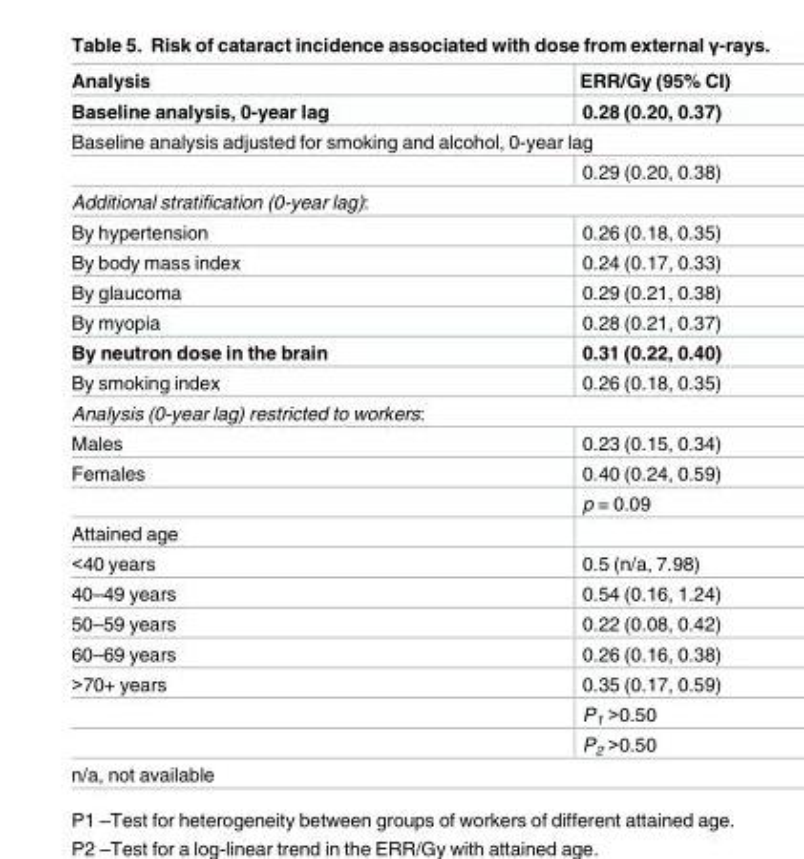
<table><thead><tr><td>Analysis</td><td>ERR/Gy (95% CI)</td></tr></thead><tbody><tr><td>Baseline analysis, 0-year lag</td><td>0.28 (0.20, 0.37)</td></tr><tr><td colspan="2">Baseline analysis adjusted for smoking and alcohol, 0-year lag</td></tr><tr><td></td><td>0.29 (0.20, 0.38)</td></tr><tr><td colspan="2">Additional stratification (0-year lag):</td></tr><tr><td>By hypertension</td><td>0.26 (0.18, 0.35)</td></tr><tr><td>By body mass index</td><td>0.24 (0.17, 0.33)</td></tr><tr><td>By glaucoma</td><td>0.29 (0.21, 0.38)</td></tr><tr><td>By myopia</td><td>0.28 (0.21, 0.37)</td></tr><tr><td>By neutron dose in the brain</td><td>0.31 (0.22, 0.40)</td></tr><tr><td>By smoking index</td><td>0.26 (0.18, 0.35)</td></tr><tr><td colspan="2">Analysis (0-year lag) restricted to workers:</td></tr><tr><td>Males</td><td>0.23 (0.15, 0.34)</td></tr><tr><td rowspan="2">Females</td><td>0.40 (0.24, 0.59)</td></tr><tr><td>p = 0.09</td></tr><tr><td colspan="2">Attained age</td></tr><tr><td>&lt;40 years</td><td>0.5 (n/a, 7.98)</td></tr><tr><td>40–49 years</td><td>0.54 (0.16, 1.24)</td></tr><tr><td>50–59 years</td><td>0.22 (0.08, 0.42)</td></tr><tr><td>60–69 years</td><td>0.26 (0.16, 0.38)</td></tr><tr><td rowspan="3">&gt;70+ years</td><td>0.35 (0.17, 0.59)</td></tr><tr><td>P<sub>1</sub> &gt;0.50</td></tr><tr><td>P<sub>2</sub> &gt;0.50</td></tr><tr><td colspan="2">n/a, not available</td></tr></tbody></table>